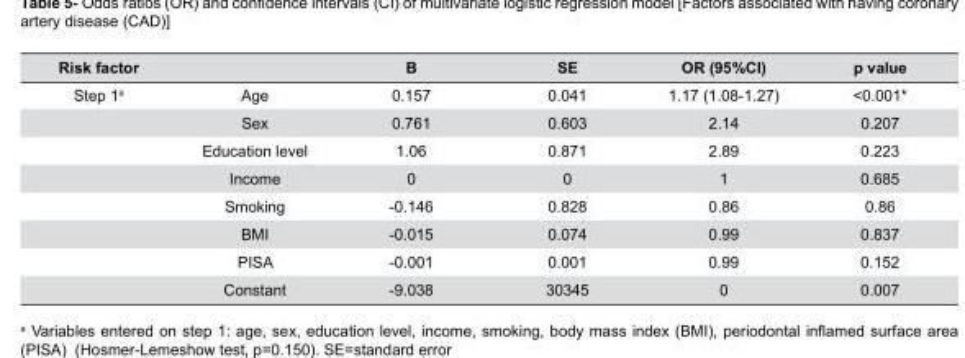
<table><thead><tr><td>Risk factor</td><td></td><td>B</td><td>SE</td><td>OR (95%CI)</td><td>p value</td></tr></thead><tbody><tr><td rowspan="8">Step 1<sup>a</sup></td><td>Age</td><td>0.157</td><td>0.041</td><td>1.17 (1.08-1.27)</td><td>&lt;0.001*</td></tr><tr><td>Sex</td><td>0.761</td><td>0.603</td><td>2.14</td><td>0.207</td></tr><tr><td>Education level</td><td>1.06</td><td>0.871</td><td>2.89</td><td>0.223</td></tr><tr><td>Income</td><td>0</td><td>0</td><td>1</td><td>0.685</td></tr><tr><td>Smoking</td><td>-0.146</td><td>0.828</td><td>0.86</td><td>0.86</td></tr><tr><td>BMI</td><td>-0.015</td><td>0.074</td><td>0.99</td><td>0.837</td></tr><tr><td>PISA</td><td>-0.001</td><td>0.001</td><td>0.99</td><td>0.152</td></tr><tr><td>Constant</td><td>-9.038</td><td>30345</td><td>0</td><td>0.007</td></tr></tbody></table>